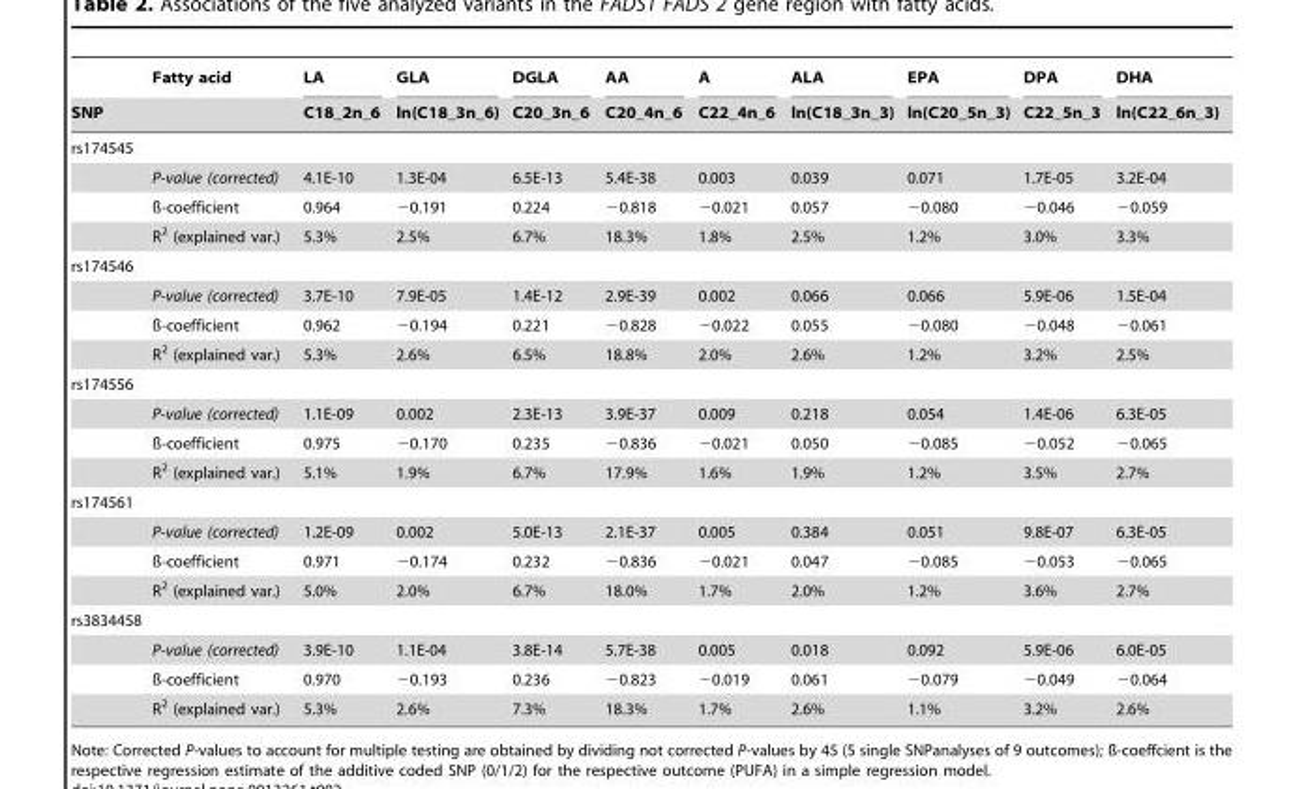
<table><thead><tr><td></td><td>Fatty acid</td><td rowspan="2">LA C18_2n_6</td><td rowspan="2">GLA ln(C18_3n_6)</td><td rowspan="2">DGLA C20_3n_6</td><td rowspan="2">AA C20_4n_6</td><td rowspan="2">A C22_4n_6</td><td rowspan="2">ALA ln(C18_3n_3)</td><td rowspan="2">EPA ln(C20_5n_3)</td><td rowspan="2">DPA C22_5n_3</td><td rowspan="2">DHA ln(C22_6n_3)</td></tr><tr><td colspan="2">SNP</td></tr></thead><tbody><tr><td colspan="11">rs174545</td></tr><tr><td></td><td>P-value (corrected)</td><td>4.1E-10</td><td>1.3E-04</td><td>6.5E-13</td><td>5.4E-38</td><td>0.003</td><td>0.039</td><td>0.071</td><td>1.7E-05</td><td>3.2E-04</td></tr><tr><td></td><td>ß-coefficient</td><td>0.964</td><td>−0.191</td><td>0.224</td><td>−0.818</td><td>−0.021</td><td>0.057</td><td>−0.080</td><td>−0.046</td><td>−0.059</td></tr><tr><td></td><td>R<sup>2</sup> (explained var.)</td><td>5.3%</td><td>2.5%</td><td>6.7%</td><td>18.3%</td><td>1.8%</td><td>2.5%</td><td>1.2%</td><td>3.0%</td><td>3.3%</td></tr><tr><td colspan="11">rs174546</td></tr><tr><td></td><td>P-value (corrected)</td><td>3.7E-10</td><td>7.9E-05</td><td>1.4E-12</td><td>2.9E-39</td><td>0.002</td><td>0.066</td><td>0.066</td><td>5.9E-06</td><td>1.5E-04</td></tr><tr><td></td><td>ß-coefficient</td><td>0.962</td><td>−0.194</td><td>0.221</td><td>−0.828</td><td>−0.022</td><td>0.055</td><td>−0.080</td><td>−0.048</td><td>−0.061</td></tr><tr><td></td><td>R<sup>2</sup> (explained var.)</td><td>5.3%</td><td>2.6%</td><td>6.5%</td><td>18.8%</td><td>2.0%</td><td>2.6%</td><td>1.2%</td><td>3.2%</td><td>2.5%</td></tr><tr><td colspan="11">rs174556</td></tr><tr><td></td><td>P-value (corrected)</td><td>1.1E-09</td><td>0.002</td><td>2.3E-13</td><td>3.9E-37</td><td>0.009</td><td>0.218</td><td>0.054</td><td>1.4E-06</td><td>6.3E-05</td></tr><tr><td></td><td>ß-coefficient</td><td>0.975</td><td>−0.170</td><td>0.235</td><td>−0.836</td><td>−0.021</td><td>0.050</td><td>−0.085</td><td>−0.052</td><td>−0.065</td></tr><tr><td></td><td>R<sup>2</sup> (explained var.)</td><td>5.1%</td><td>1.9%</td><td>6.7%</td><td>17.9%</td><td>1.6%</td><td>1.9%</td><td>1.2%</td><td>3.5%</td><td>2.7%</td></tr><tr><td colspan="11">rs174561</td></tr><tr><td></td><td>P-value (corrected)</td><td>1.2E-09</td><td>0.002</td><td>5.0E-13</td><td>2.1E-37</td><td>0.005</td><td>0.384</td><td>0.051</td><td>9.8E-07</td><td>6.3E-05</td></tr><tr><td></td><td>ß-coefficient</td><td>0.971</td><td>−0.174</td><td>0.232</td><td>−0.836</td><td>−0.021</td><td>0.047</td><td>−0.085</td><td>−0.053</td><td>−0.065</td></tr><tr><td></td><td>R<sup>2</sup> (explained var.)</td><td>5.0%</td><td>2.0%</td><td>6.7%</td><td>18.0%</td><td>1.7%</td><td>2.0%</td><td>1.2%</td><td>3.6%</td><td>2.7%</td></tr><tr><td colspan="11">rs3834458</td></tr><tr><td></td><td>P-value (corrected)</td><td>3.9E-10</td><td>1.1E-04</td><td>3.8E-14</td><td>5.7E-38</td><td>0.005</td><td>0.018</td><td>0.092</td><td>5.9E-06</td><td>6.0E-05</td></tr><tr><td></td><td>ß-coefficient</td><td>0.970</td><td>−0.193</td><td>0.236</td><td>−0.823</td><td>−0.019</td><td>0.061</td><td>−0.079</td><td>−0.049</td><td>−0.064</td></tr><tr><td></td><td>R<sup>2</sup> (explained var.)</td><td>5.3%</td><td>2.6%</td><td>7.3%</td><td>18.3%</td><td>1.7%</td><td>2.6%</td><td>1.1%</td><td>3.2%</td><td>2.6%</td></tr></tbody></table>